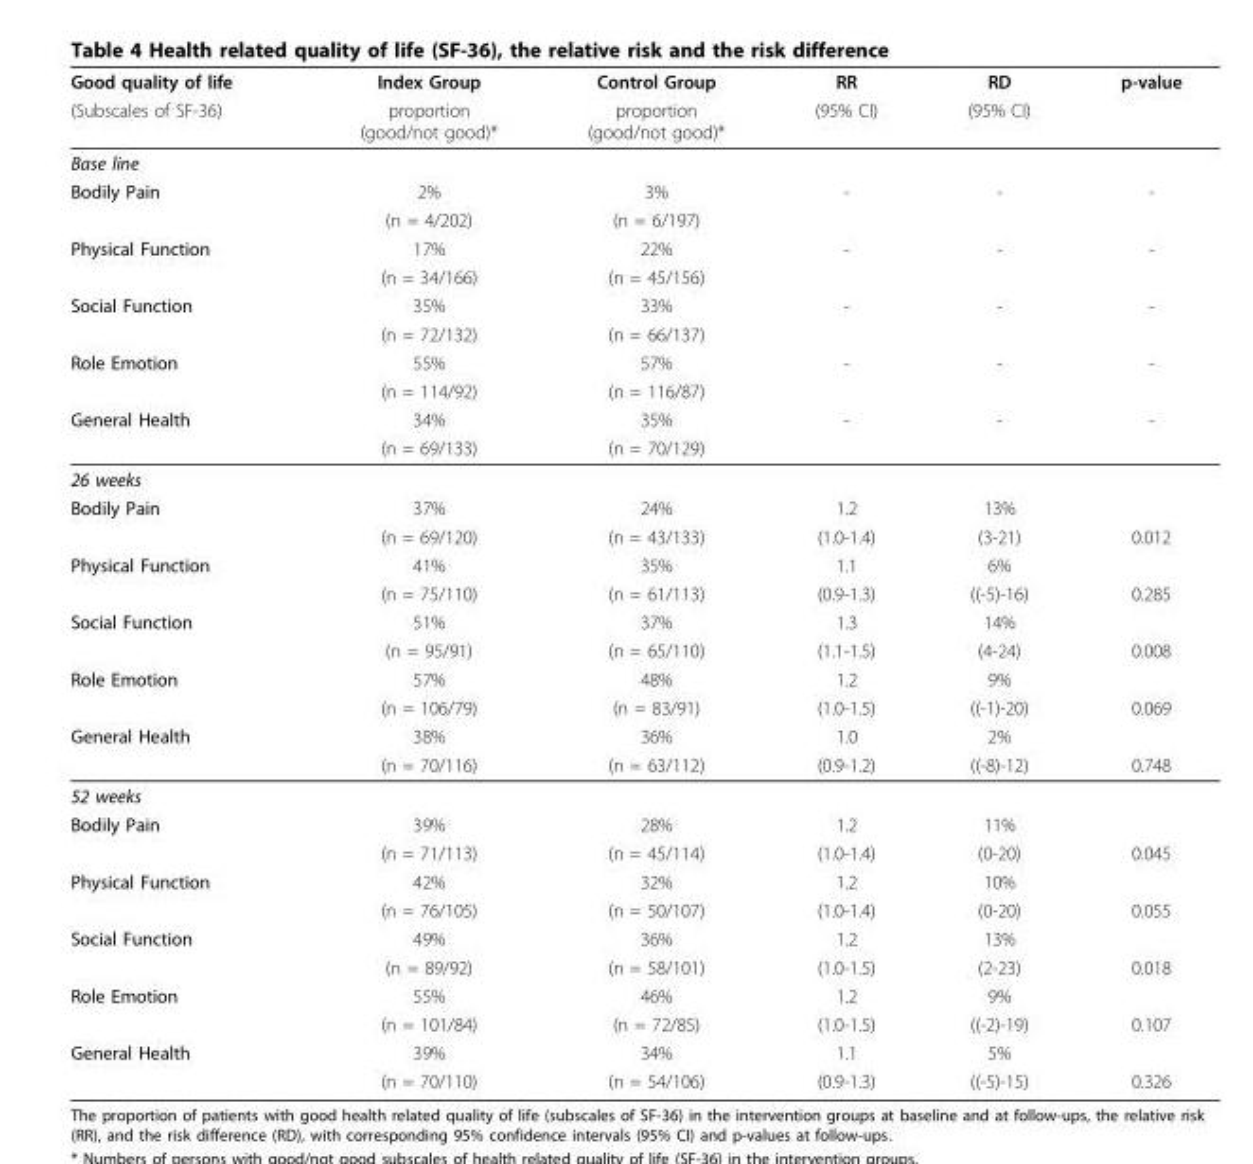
<table><thead><tr><td rowspan="2">Good quality of life (Subscales of SF-36)</td><td rowspan="2">Index Group proportion (good/not good)*</td><td rowspan="2">Control Group proportion (good/not good)*</td><td rowspan="2">RR (95% CI)</td><td rowspan="2">RD (95% CI)</td><td rowspan="2">p-value</td></tr><tr></tr></thead><tbody><tr><td colspan="6">Base line</td></tr><tr><td rowspan="2">Bodily Pain</td><td>2%</td><td>3%</td><td>-</td><td>-</td><td>-</td></tr><tr><td>(n = 4/202)</td><td>(n = 6/197)</td><td></td><td></td><td></td></tr><tr><td rowspan="2">Physical Function</td><td>17%</td><td>22%</td><td>-</td><td>-</td><td>-</td></tr><tr><td>(n = 34/166)</td><td>(n = 45/156)</td><td></td><td></td><td></td></tr><tr><td rowspan="2">Social Function</td><td>35%</td><td>33%</td><td>-</td><td>-</td><td>-</td></tr><tr><td>(n = 72/132)</td><td>(n = 66/137)</td><td></td><td></td><td></td></tr><tr><td rowspan="2">Role Emotion</td><td>55%</td><td>57%</td><td>-</td><td>-</td><td>-</td></tr><tr><td>(n = 114/92)</td><td>(n = 116/87)</td><td></td><td></td><td></td></tr><tr><td rowspan="2">General Health</td><td>34%</td><td>35%</td><td>-</td><td>-</td><td>-</td></tr><tr><td>(n = 69/133)</td><td>(n = 70/129)</td><td></td><td></td><td></td></tr><tr><td colspan="6">26 weeks</td></tr><tr><td rowspan="2">Bodily Pain</td><td>37%</td><td>24%</td><td>1.2</td><td>13%</td><td></td></tr><tr><td>(n = 69/120)</td><td>(n = 43/133)</td><td>(1.0-1.4)</td><td>(3-21)</td><td>0.012</td></tr><tr><td rowspan="2">Physical Function</td><td>41%</td><td>35%</td><td>1.1</td><td>6%</td><td></td></tr><tr><td>(n = 75/110)</td><td>(n = 61/113)</td><td>(0.9-1.3)</td><td>((-5)-16)</td><td>0.285</td></tr><tr><td rowspan="2">Social Function</td><td>51%</td><td>37%</td><td>1.3</td><td>14%</td><td></td></tr><tr><td>(n = 95/91)</td><td>(n = 65/110)</td><td>(1.1-1.5)</td><td>(4-24)</td><td>0.008</td></tr><tr><td rowspan="2">Role Emotion</td><td>57%</td><td>48%</td><td>1.2</td><td>9%</td><td></td></tr><tr><td>(n = 106/79)</td><td>(n = 83/91)</td><td>(1.0-1.5)</td><td>((-1)-20)</td><td>0.069</td></tr><tr><td rowspan="2">General Health</td><td>38%</td><td>36%</td><td>1.0</td><td>2%</td><td></td></tr><tr><td>(n = 70/116)</td><td>(n = 63/112)</td><td>(0.9-1.2)</td><td>((-8)-12)</td><td>0.748</td></tr><tr><td colspan="6">52 weeks</td></tr><tr><td rowspan="2">Bodily Pain</td><td>39%</td><td>28%</td><td>1.2</td><td>11%</td><td></td></tr><tr><td>(n = 71/113)</td><td>(n = 45/114)</td><td>(1.0-1.4)</td><td>(0-20)</td><td>0.045</td></tr><tr><td rowspan="2">Physical Function</td><td>42%</td><td>32%</td><td>1.2</td><td>10%</td><td></td></tr><tr><td>(n = 76/105)</td><td>(n = 50/107)</td><td>(1.0-1.4)</td><td>(0-20)</td><td>0.055</td></tr><tr><td rowspan="2">Social Function</td><td>49%</td><td>36%</td><td>1.2</td><td>13%</td><td></td></tr><tr><td>(n = 89/92)</td><td>(n = 58/101)</td><td>(1.0-1.5)</td><td>(2-23)</td><td>0.018</td></tr><tr><td rowspan="2">Role Emotion</td><td>55%</td><td>46%</td><td>1.2</td><td>9%</td><td></td></tr><tr><td>(n = 101/84)</td><td>(n = 72/85)</td><td>(1.0-1.5)</td><td>((-2)-19)</td><td>0.107</td></tr><tr><td rowspan="2">General Health</td><td>39%</td><td>34%</td><td>1.1</td><td>5%</td><td></td></tr><tr><td>(n = 70/110)</td><td>(n = 54/106)</td><td>(0.9-1.3)</td><td>((-5)-15)</td><td>0.326</td></tr></tbody></table>